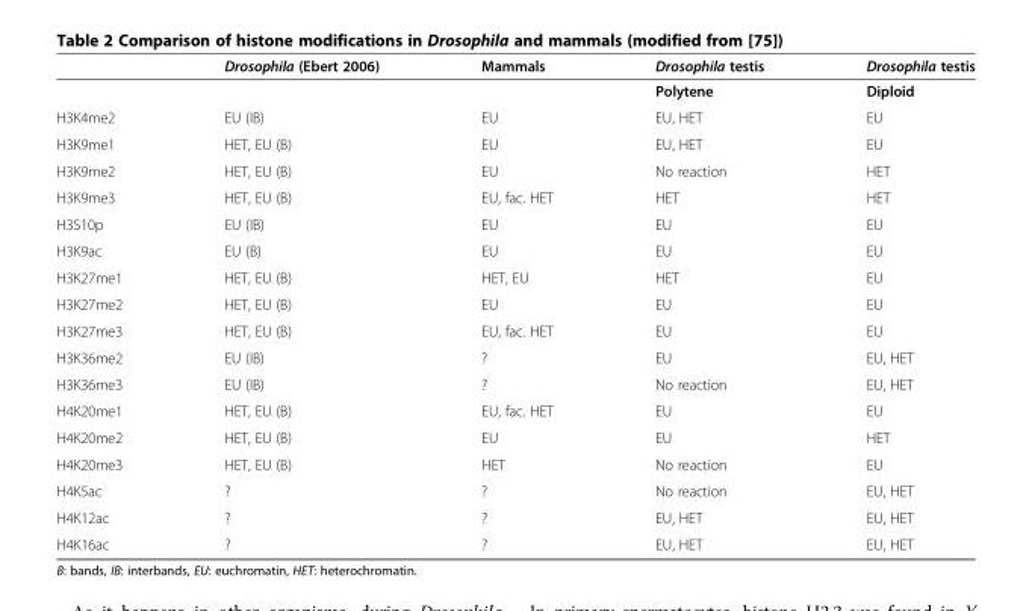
<table><thead><tr><td></td><td>Drosophila (Ebert 2006)</td><td>Mammals</td><td>Drosophila testis</td><td>Drosophila testis</td></tr></thead><tbody><tr><td></td><td></td><td></td><td>Polytene</td><td>Diploid</td></tr><tr><td>H3K4me2</td><td>EU (IB)</td><td>EU</td><td>EU, HET</td><td>EU</td></tr><tr><td>H3K9me1</td><td>HET, EU (B)</td><td>EU</td><td>EU, HET</td><td>EU</td></tr><tr><td>H3K9me2</td><td>HET, EU (B)</td><td>EU</td><td>No reaction</td><td>HET</td></tr><tr><td>H3K9me3</td><td>HET, EU (B)</td><td>EU, fac. HET</td><td>HET</td><td>HET</td></tr><tr><td>H3S10p</td><td>EU (IB)</td><td>EU</td><td>EU</td><td>EU</td></tr><tr><td>H3K9ac</td><td>EU (B)</td><td>EU</td><td>EU</td><td>EU</td></tr><tr><td>H3K27me1</td><td>HET, EU (B)</td><td>HET, EU</td><td>HET</td><td>EU</td></tr><tr><td>H3K27me2</td><td>HET, EU (B)</td><td>EU</td><td>EU</td><td>EU</td></tr><tr><td>H3K27me3</td><td>HET, EU (B)</td><td>EU, fac. HET</td><td>EU</td><td>EU</td></tr><tr><td>H3K36me2</td><td>EU (IB)</td><td>?</td><td>EU</td><td>EU, HET</td></tr><tr><td>H3K36me3</td><td>EU (IB)</td><td>?</td><td>No reaction</td><td>EU, HET</td></tr><tr><td>H4K20me1</td><td>HET, EU (B)</td><td>EU, fac. HET</td><td>EU</td><td>EU</td></tr><tr><td>H4K20me2</td><td>HET, EU (B)</td><td>EU</td><td>EU</td><td>HET</td></tr><tr><td>H4K20me3</td><td>HET, EU (B)</td><td>HET</td><td>No reaction</td><td>EU</td></tr><tr><td>H4K5ac</td><td>?</td><td>?</td><td>No reaction</td><td>EU, HET</td></tr><tr><td>H4K12ac</td><td>?</td><td>?</td><td>EU, HET</td><td>EU, HET</td></tr><tr><td>H4K16ac</td><td>?</td><td>?</td><td>EU, HET</td><td>EU, HET</td></tr></tbody></table>